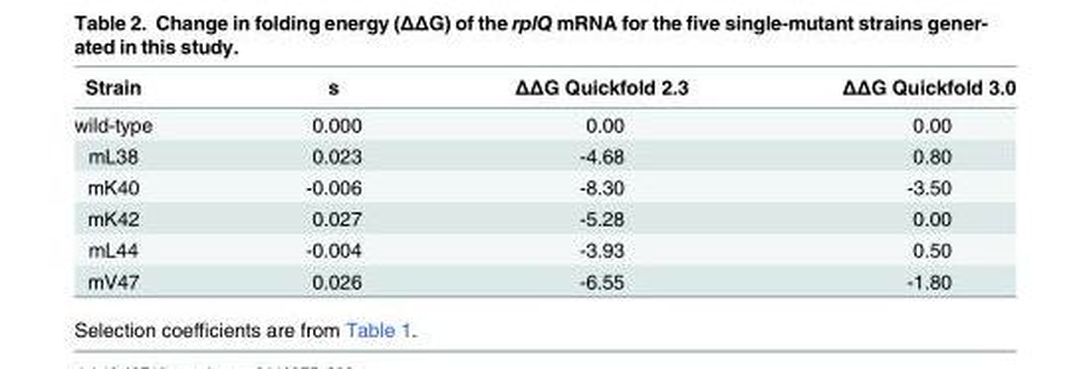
<table><thead><tr><td>Strain</td><td>s</td><td>ΔΔG Quickfold 2.3</td><td>ΔΔG Quickfold 3.0</td></tr></thead><tbody><tr><td>wild-type</td><td>0.000</td><td>0.00</td><td>0.00</td></tr><tr><td>mL38</td><td>0.023</td><td>-4.68</td><td>0.80</td></tr><tr><td>mK40</td><td>-0.006</td><td>-8.30</td><td>-3.50</td></tr><tr><td>mK42</td><td>0.027</td><td>-5.28</td><td>0.00</td></tr><tr><td>mL44</td><td>-0.004</td><td>-3.93</td><td>0.50</td></tr><tr><td>mV47</td><td>0.026</td><td>-6.55</td><td>-1.80</td></tr></tbody></table>